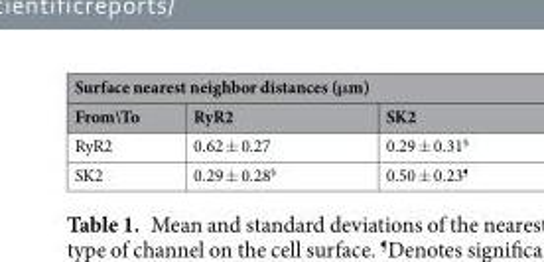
<table><thead><tr><td colspan="3">Surface nearest neighbor distances (μm)</td></tr><tr><td>From\To</td><td>RyR2</td><td>SK2</td></tr></thead><tbody><tr><td>RyR2</td><td>0.62 ± 0.27</td><td>0.29 ± 0.31<sup>§</sup></td></tr><tr><td>SK2</td><td>0.29 ± 0.28<sup>§</sup></td><td>0.50 ± 0.23<sup>¶</sup></td></tr></tbody></table>